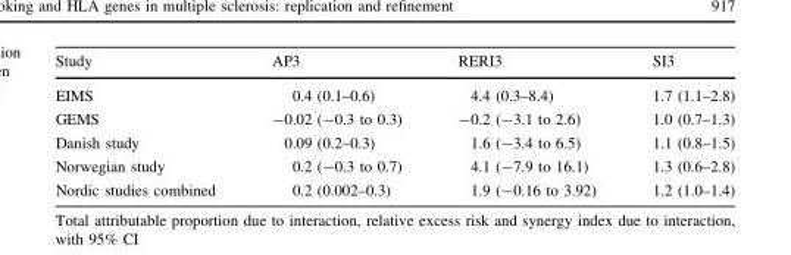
<table><thead><tr><td>Study</td><td>AP3</td><td>RERI3</td><td>SI3</td></tr></thead><tbody><tr><td>EIMS</td><td>0.4 (0.1–0.6)</td><td>4.4 (0.3–8.4)</td><td>1.7 (1.1–2.8)</td></tr><tr><td>GEMS</td><td>-0.02 (-0.3 to 0.3)</td><td>-0.2 (-3.1 to 2.6)</td><td>1.0 (0.7–1.3)</td></tr><tr><td>Danish study</td><td>0.09 (0.2–0.3)</td><td>1.6 (-3.4 to 6.5)</td><td>1.1 (0.8–1.5)</td></tr><tr><td>Norwegian study</td><td>0.2 (-0.3 to 0.7)</td><td>4.1 (-7.9 to 16.1)</td><td>1.3 (0.6–2.8)</td></tr><tr><td>Nordic studies combined</td><td>0.2 (0.002–0.3)</td><td>1.9 (-0.16 to 3.92)</td><td>1.2 (1.0–1.4)</td></tr></tbody></table>